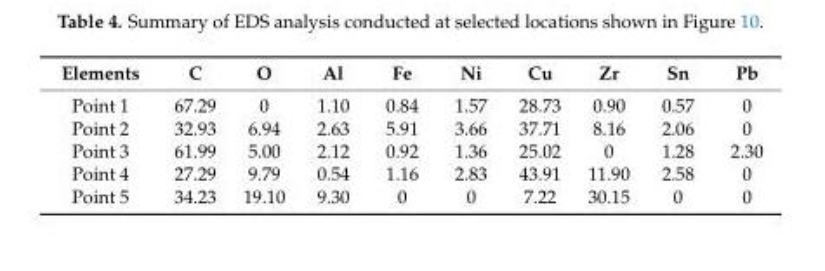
<table><thead><tr><td>Elements</td><td>C</td><td>O</td><td>Al</td><td>Fe</td><td>Ni</td><td>Cu</td><td>Zr</td><td>Sn</td><td>Pb</td></tr></thead><tbody><tr><td>Point 1</td><td>67.29</td><td>0</td><td>1.10</td><td>0.84</td><td>1.57</td><td>28.73</td><td>0.90</td><td>0.57</td><td>0</td></tr><tr><td>Point 2</td><td>32.93</td><td>6.94</td><td>2.63</td><td>5.91</td><td>3.66</td><td>37.71</td><td>8.16</td><td>2.06</td><td>0</td></tr><tr><td>Point 3</td><td>61.99</td><td>5.00</td><td>2.12</td><td>0.92</td><td>1.36</td><td>25.02</td><td>0</td><td>1.28</td><td>2.30</td></tr><tr><td>Point 4</td><td>27.29</td><td>9.79</td><td>0.54</td><td>1.16</td><td>2.83</td><td>43.91</td><td>11.90</td><td>2.58</td><td>0</td></tr><tr><td>Point 5</td><td>34.23</td><td>19.10</td><td>9.30</td><td>0</td><td>0</td><td>7.22</td><td>30.15</td><td>0</td><td>0</td></tr></tbody></table>